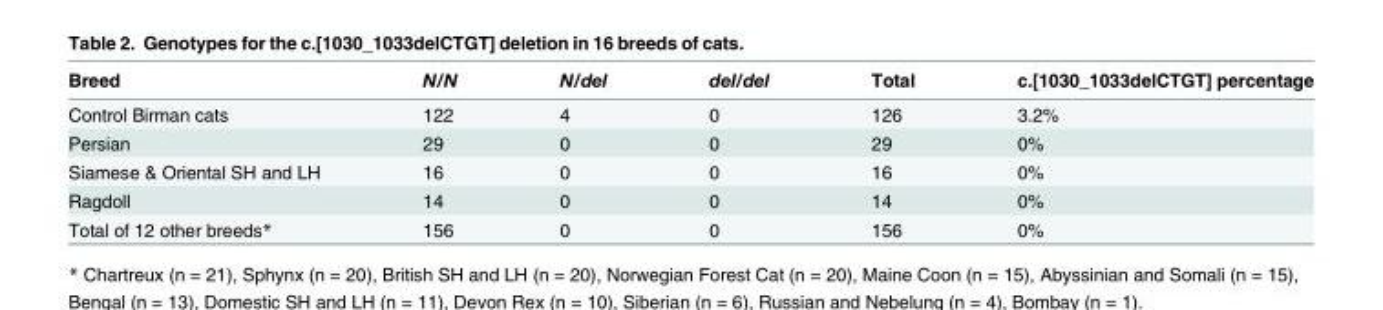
<table><thead><tr><td>Breed</td><td>N/N</td><td>N/del</td><td>del/del</td><td>Total</td><td>c.[1030_1033delCTGT] percentage</td></tr></thead><tbody><tr><td>Control Birman cats</td><td>122</td><td>4</td><td>0</td><td>126</td><td>3.2%</td></tr><tr><td>Persian</td><td>29</td><td>0</td><td>0</td><td>29</td><td>0%</td></tr><tr><td>Siamese &amp; Oriental SH and LH</td><td>16</td><td>0</td><td>0</td><td>16</td><td>0%</td></tr><tr><td>Ragdoll</td><td>14</td><td>0</td><td>0</td><td>14</td><td>0%</td></tr><tr><td>Total of 12 other breeds*</td><td>156</td><td>0</td><td>0</td><td>156</td><td>0%</td></tr></tbody></table>